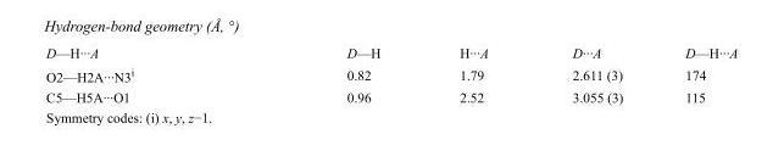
<table><tbody><tr><td>D—H···A</td><td>D—H</td><td>H···A</td><td>D···A</td><td>D—H···A</td></tr><tr><td>O2—H2A···N3<sup>i</sup></td><td>0.82</td><td>1.79</td><td>2.611 (3)</td><td>174</td></tr><tr><td>C5—H5A···O1</td><td>0.96</td><td>2.52</td><td>3.055 (3)</td><td>115</td></tr></tbody></table>